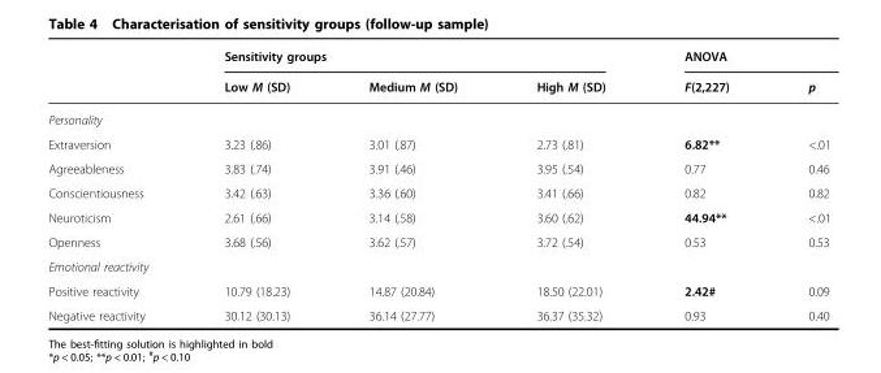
<table><thead><tr><td rowspan="2"></td><td colspan="3">Sensitivity groups</td><td colspan="2">ANOVA</td></tr><tr><td>Low M (SD)</td><td>Medium M (SD)</td><td>High M (SD)</td><td>F(2,227)</td><td>p</td></tr></thead><tbody><tr><td colspan="6">Personality</td></tr><tr><td>Extraversion</td><td>3.23 (.86)</td><td>3.01 (.87)</td><td>2.73 (.81)</td><td>6.82**</td><td>&lt;.01</td></tr><tr><td>Agreeableness</td><td>3.83 (.74)</td><td>3.91 (.46)</td><td>3.95 (.54)</td><td>0.77</td><td>0.46</td></tr><tr><td>Conscientiousness</td><td>3.42 (.63)</td><td>3.36 (.60)</td><td>3.41 (.66)</td><td>0.82</td><td>0.82</td></tr><tr><td>Neuroticism</td><td>2.61 (.66)</td><td>3.14 (.58)</td><td>3.60 (.62)</td><td>44.94**</td><td>&lt;.01</td></tr><tr><td>Openness</td><td>3.68 (.56)</td><td>3.62 (.57)</td><td>3.72 (.54)</td><td>0.53</td><td>0.53</td></tr><tr><td colspan="6">Emotional reactivity</td></tr><tr><td>Positive reactivity</td><td>10.79 (18.23)</td><td>14.87 (20.84)</td><td>18.50 (22.01)</td><td>2.42#</td><td>0.09</td></tr><tr><td>Negative reactivity</td><td>30.12 (30.13)</td><td>36.14 (27.77)</td><td>36.37 (35.32)</td><td>0.93</td><td>0.40</td></tr></tbody></table>